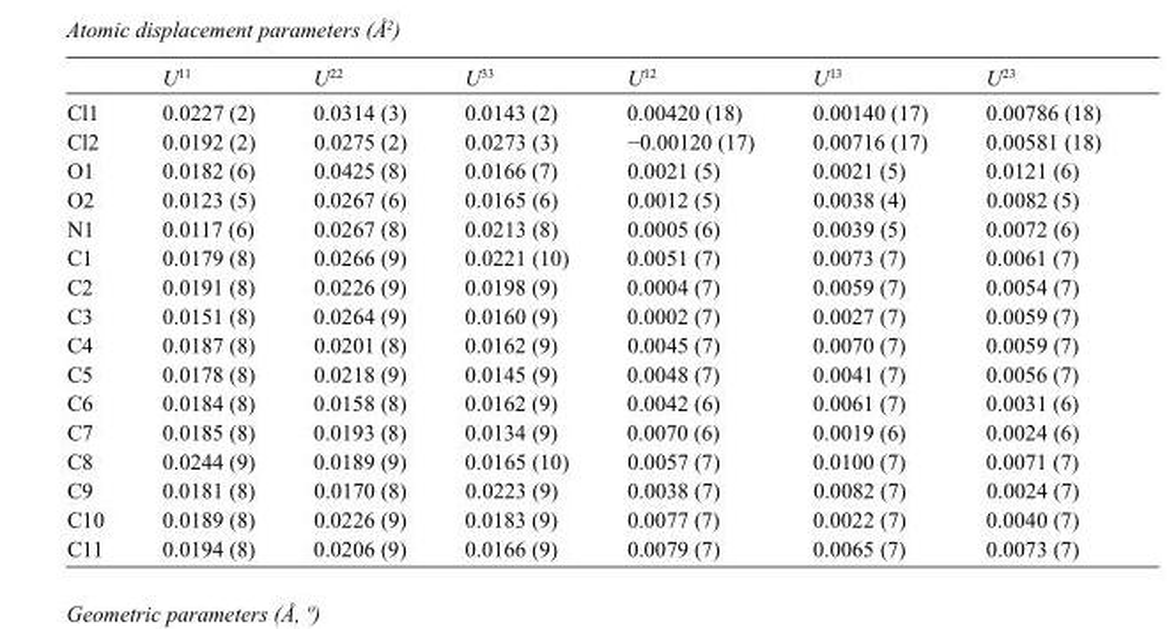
<table><thead><tr><td></td><td>U<sup>11</sup></td><td>U<sup>22</sup></td><td>U<sup>33</sup></td><td>U<sup>12</sup></td><td>U<sup>13</sup></td><td>U<sup>23</sup></td></tr></thead><tbody><tr><td>Cl1</td><td>0.0227 (2)</td><td>0.0314 (3)</td><td>0.0143 (2)</td><td>0.00420 (18)</td><td>0.00140 (17)</td><td>0.00786 (18)</td></tr><tr><td>Cl2</td><td>0.0192 (2)</td><td>0.0275 (2)</td><td>0.0273 (3)</td><td>−0.00120 (17)</td><td>0.00716 (17)</td><td>0.00581 (18)</td></tr><tr><td>O1</td><td>0.0182 (6)</td><td>0.0425 (8)</td><td>0.0166 (7)</td><td>0.0021 (5)</td><td>0.0021 (5)</td><td>0.0121 (6)</td></tr><tr><td>O2</td><td>0.0123 (5)</td><td>0.0267 (6)</td><td>0.0165 (6)</td><td>0.0012 (5)</td><td>0.0038 (4)</td><td>0.0082 (5)</td></tr><tr><td>N1</td><td>0.0117 (6)</td><td>0.0267 (8)</td><td>0.0213 (8)</td><td>0.0005 (6)</td><td>0.0039 (5)</td><td>0.0072 (6)</td></tr><tr><td>C1</td><td>0.0179 (8)</td><td>0.0266 (9)</td><td>0.0221 (10)</td><td>0.0051 (7)</td><td>0.0073 (7)</td><td>0.0061 (7)</td></tr><tr><td>C2</td><td>0.0191 (8)</td><td>0.0226 (9)</td><td>0.0198 (9)</td><td>0.0004 (7)</td><td>0.0059 (7)</td><td>0.0054 (7)</td></tr><tr><td>C3</td><td>0.0151 (8)</td><td>0.0264 (9)</td><td>0.0160 (9)</td><td>0.0002 (7)</td><td>0.0027 (7)</td><td>0.0059 (7)</td></tr><tr><td>C4</td><td>0.0187 (8)</td><td>0.0201 (8)</td><td>0.0162 (9)</td><td>0.0045 (7)</td><td>0.0070 (7)</td><td>0.0059 (7)</td></tr><tr><td>C5</td><td>0.0178 (8)</td><td>0.0218 (9)</td><td>0.0145 (9)</td><td>0.0048 (7)</td><td>0.0041 (7)</td><td>0.0056 (7)</td></tr><tr><td>C6</td><td>0.0184 (8)</td><td>0.0158 (8)</td><td>0.0162 (9)</td><td>0.0042 (6)</td><td>0.0061 (7)</td><td>0.0031 (6)</td></tr><tr><td>C7</td><td>0.0185 (8)</td><td>0.0193 (8)</td><td>0.0134 (9)</td><td>0.0070 (6)</td><td>0.0019 (6)</td><td>0.0024 (6)</td></tr><tr><td>C8</td><td>0.0244 (9)</td><td>0.0189 (9)</td><td>0.0165 (10)</td><td>0.0057 (7)</td><td>0.0100 (7)</td><td>0.0071 (7)</td></tr><tr><td>C9</td><td>0.0181 (8)</td><td>0.0170 (8)</td><td>0.0223 (9)</td><td>0.0038 (7)</td><td>0.0082 (7)</td><td>0.0024 (7)</td></tr><tr><td>C10</td><td>0.0189 (8)</td><td>0.0226 (9)</td><td>0.0183 (9)</td><td>0.0077 (7)</td><td>0.0022 (7)</td><td>0.0040 (7)</td></tr><tr><td>C11</td><td>0.0194 (8)</td><td>0.0206 (9)</td><td>0.0166 (9)</td><td>0.0079 (7)</td><td>0.0065 (7)</td><td>0.0073 (7)</td></tr></tbody></table>